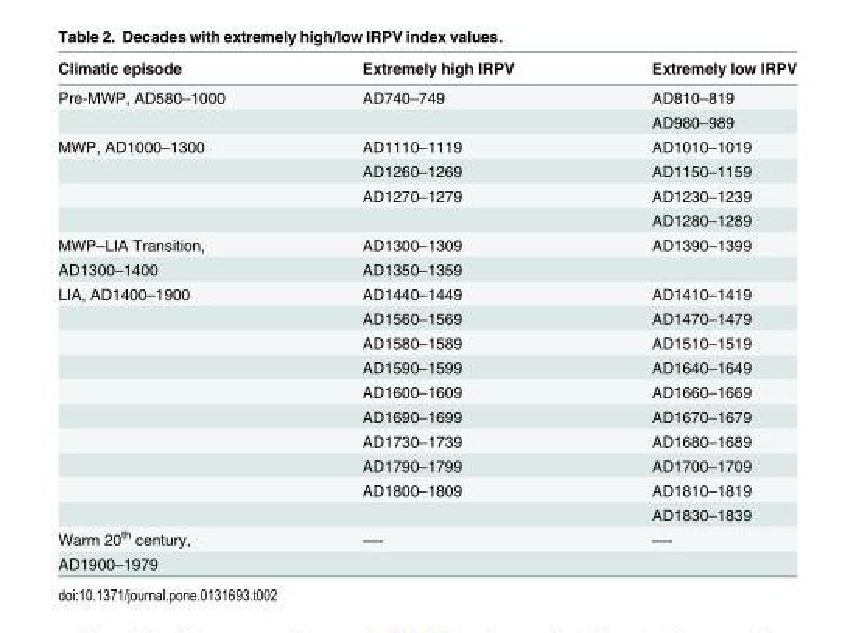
<table><thead><tr><td>Climatic episode</td><td>Extremely high IRPV</td><td>Extremely low IRPV</td></tr></thead><tbody><tr><td rowspan="2">Pre-MWP, AD580–1000</td><td>AD740–749</td><td>AD810–819</td></tr><tr><td></td><td>AD980–989</td></tr><tr><td rowspan="4">MWP, AD1000–1300</td><td>AD1110–1119</td><td>AD1010–1019</td></tr><tr><td>AD1260–1269</td><td>AD1150–1159</td></tr><tr><td>AD1270–1279</td><td>AD1230–1239</td></tr><tr><td></td><td>AD1280–1289</td></tr><tr><td>MWP–LIA Transition,</td><td>AD1300–1309</td><td>AD1390–1399</td></tr><tr><td>AD1300–1400</td><td>AD1350–1359</td><td></td></tr><tr><td rowspan="10">LIA, AD1400–1900</td><td>AD1440–1449</td><td>AD1410–1419</td></tr><tr><td>AD1560–1569</td><td>AD1470–1479</td></tr><tr><td>AD1580–1589</td><td>AD1510–1519</td></tr><tr><td>AD1590–1599</td><td>AD1640–1649</td></tr><tr><td>AD1600–1609</td><td>AD1660–1669</td></tr><tr><td>AD1690–1699</td><td>AD1670–1679</td></tr><tr><td>AD1730–1739</td><td>AD1680–1689</td></tr><tr><td>AD1790–1799</td><td>AD1700–1709</td></tr><tr><td>AD1800–1809</td><td>AD1810–1819</td></tr><tr><td></td><td>AD1830–1839</td></tr><tr><td>Warm 20<sup>th</sup> century,</td><td>—-</td><td>—-</td></tr><tr><td>AD1900–1979</td><td></td><td></td></tr></tbody></table>